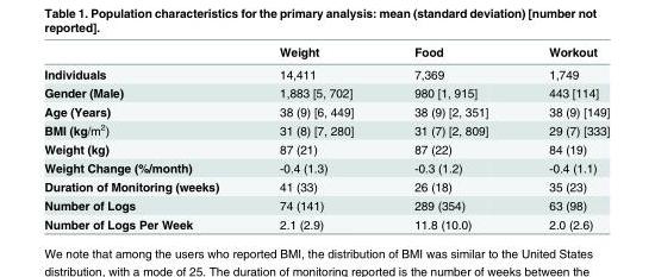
<table><thead><tr><td></td><td>Weight</td><td>Food</td><td>Workout</td></tr></thead><tbody><tr><td>Individuals</td><td>14,411</td><td>7,369</td><td>1,749</td></tr><tr><td>Gender (Male)</td><td>1,883 [5, 702]</td><td>980 [1, 915]</td><td>443 [114]</td></tr><tr><td>Age (Years)</td><td>38 (9) [6, 449]</td><td>38 (9) [2, 351]</td><td>38 (9) [149]</td></tr><tr><td>BMI (kg/m<sup>2</sup>)</td><td>31 (8) [7, 280]</td><td>31 (7) [2, 809]</td><td>29 (7) [333]</td></tr><tr><td>Weight (kg)</td><td>87 (21)</td><td>87 (22)</td><td>84 (19)</td></tr><tr><td>Weight Change (%/month)</td><td>-0.4 (1.3)</td><td>-0.3 (1.2)</td><td>-0.4 (1.1)</td></tr><tr><td>Duration of Monitoring (weeks)</td><td>41 (33)</td><td>26 (18)</td><td>35 (23)</td></tr><tr><td>Number of Logs</td><td>74 (141)</td><td>289 (354)</td><td>63 (98)</td></tr><tr><td>Number of Logs Per Week</td><td>2.1 (2.9)</td><td>11.8 (10.0)</td><td>2.0 (2.6)</td></tr></tbody></table>